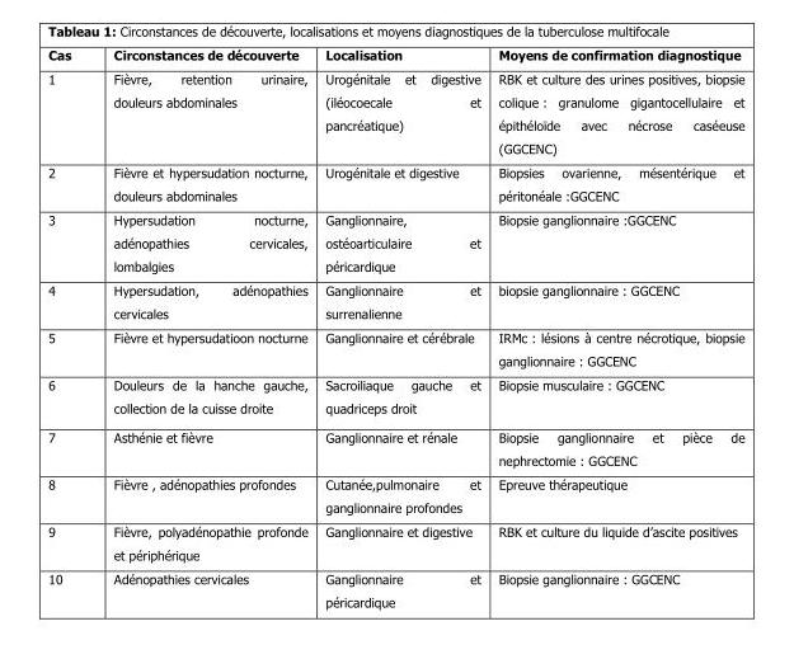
<table><thead><tr><td>Cas</td><td>Circonstances de découverte</td><td>Localisation</td><td>Moyens de confirmation diagnostique</td></tr></thead><tbody><tr><td>1</td><td>Fièvre, retention urinaire, douleurs abdominales</td><td>Urogénitale et digestive (iléocoecale et pancréatique)</td><td>RBK et culture des urines positives, biopsie colique : granulome gigantocellulaire et épithéloïde avec nécrose caséeuse (GGCENC)</td></tr><tr><td>2</td><td>Fièvre et hypersudation nocturne, douleurs abdominales</td><td>Urogénitale et digestive</td><td>Biopsies ovarienne, mésentérique et péritonéale :GGCENC</td></tr><tr><td>3</td><td>Hypersudation nocturne, adénopathies cervicales, lombalgies</td><td>Ganglionnaire, ostéoarticulaire et péricardique</td><td>Biopsie ganglionnaire :GGCENC</td></tr><tr><td>4</td><td>Hypersudation, adénopathies cervicales</td><td>Ganglionnaire et surrenalienne</td><td>biopsie ganglionnaire : GGCENC</td></tr><tr><td>5</td><td>Fièvre et hypersudatioon nocturne</td><td>Ganglionnaire et cérébrale</td><td>IRMc : lésions à centre nécrotique, biopsie ganglionnaire : GGCENC</td></tr><tr><td>6</td><td>Douleurs de la hanche gauche, collection de la cuisse droite</td><td>Sacroiliaque gauche et quadriceps droit</td><td>Biopsie musculaire : GGCENC</td></tr><tr><td>7</td><td>Asthénie et fièvre</td><td>Ganglionnaire et rénale</td><td>Biopsie ganglionnaire et pièce de nephrectomie : GGCENC</td></tr><tr><td>8</td><td>Fièvre , adénopathies profondes</td><td>Cutanée,pulmonaire et ganglionnaire profondes</td><td>Epreuve thérapeutique</td></tr><tr><td>9</td><td>Fièvre, polyadénopathie profonde et périphérique</td><td>Ganglionnaire et digestive</td><td>RBK et culture du liquide d’ascite positives</td></tr><tr><td>10</td><td>Adénopathies cervicales</td><td>Ganglionnaire et péricardique</td><td>Biopsie ganglionnaire : GGCENC</td></tr></tbody></table>